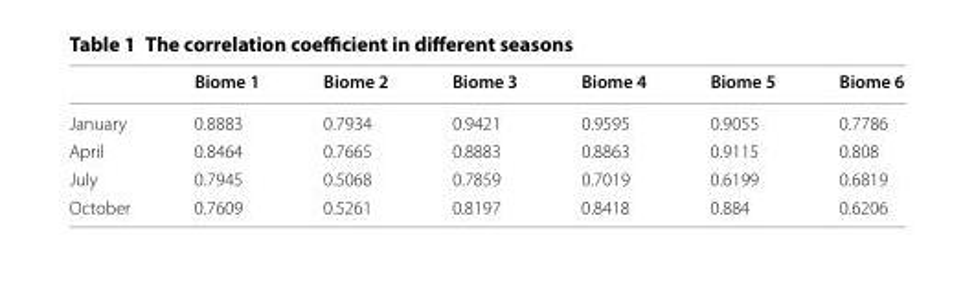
<table><thead><tr><td></td><td>Biome 1</td><td>Biome 2</td><td>Biome 3</td><td>Biome 4</td><td>Biome 5</td><td>Biome 6</td></tr></thead><tbody><tr><td>January</td><td>0.8883</td><td>0.7934</td><td>0.9421</td><td>0.9595</td><td>0.9055</td><td>0.7786</td></tr><tr><td>April</td><td>0.8464</td><td>0.7665</td><td>0.8883</td><td>0.8863</td><td>0.9115</td><td>0.808</td></tr><tr><td>July</td><td>0.7945</td><td>0.5068</td><td>0.7859</td><td>0.7019</td><td>0.6199</td><td>0.6819</td></tr><tr><td>October</td><td>0.7609</td><td>0.5261</td><td>0.8197</td><td>0.8418</td><td>0.884</td><td>0.6206</td></tr></tbody></table>